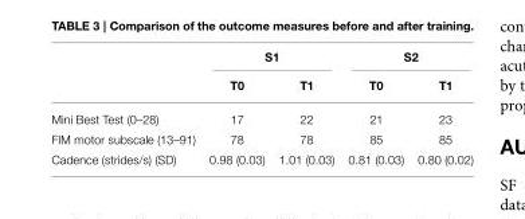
<table><thead><tr><td rowspan="2"></td><td colspan="2">S1</td><td colspan="2">S2</td></tr><tr><td>T0</td><td>T1</td><td>T0</td><td>T1</td></tr></thead><tbody><tr><td>Mini Best Test (0–28)</td><td>17</td><td>22</td><td>21</td><td>23</td></tr><tr><td>FIM motor subscale (13–91)</td><td>78</td><td>78</td><td>85</td><td>85</td></tr><tr><td>Cadence (strides/s) (SD)</td><td>0.98 (0.03)</td><td>1.01 (0.03)</td><td>0.81 (0.03)</td><td>0.80 (0.02)</td></tr></tbody></table>